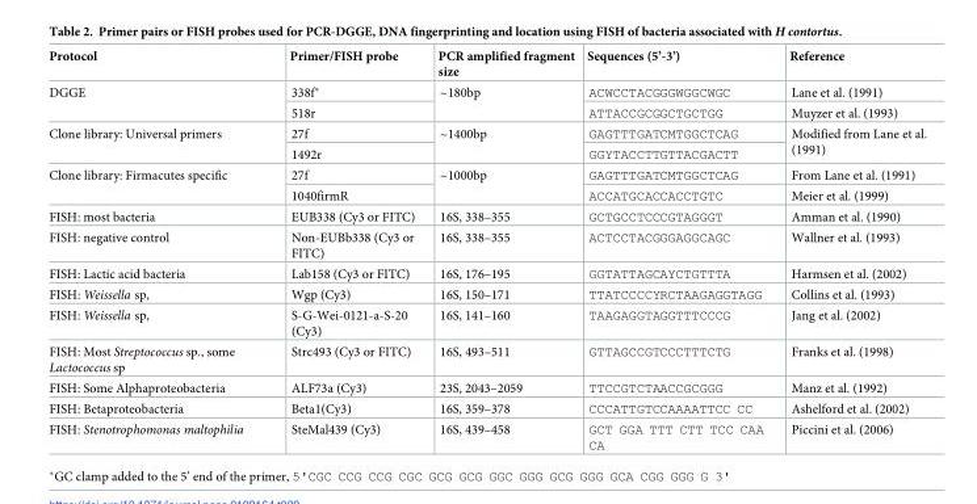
<table><thead><tr><td>Protocol</td><td>Primer/FISH probe</td><td>PCR amplified fragment size</td><td>Sequences (5’-3’)</td><td>Reference</td></tr></thead><tbody><tr><td rowspan="2">DGGE</td><td>338f*</td><td rowspan="2">~180bp</td><td>ACWCCTACGGGWGGCWGC</td><td>Lane et al. (1991)</td></tr><tr><td>518r</td><td>ATTACCGCGGCTGCTGG</td><td>Muyzer et al. (1993)</td></tr><tr><td rowspan="2">Clone library: Universal primers</td><td>27f</td><td rowspan="2">~1400bp</td><td>GAGTTTGATCMTGGCTCAG</td><td rowspan="2">Modified from Lane et al. (1991)</td></tr><tr><td>1492r</td><td>GGYTACCTTGTTACGACTT</td></tr><tr><td rowspan="2">Clone library: Firmacutes specific</td><td>27f</td><td rowspan="2">~1000bp</td><td>GAGTTTGATCMTGGCTCAG</td><td>From Lane et al. (1991)</td></tr><tr><td>1040firmR</td><td>ACCATGCACCACCTGTC</td><td>Meier et al. (1999)</td></tr><tr><td>FISH: most bacteria</td><td>EUB338 (Cy3 or FITC)</td><td>16S, 338–355</td><td>GCTGCCTCCCGTAGGGT</td><td>Amman et al. (1990)</td></tr><tr><td>FISH: negative control</td><td>Non-EUBb338 (Cy3 or FITC)</td><td>16S, 338–355</td><td>ACTCCTACGGGAGGCAGC</td><td>Wallner et al. (1993)</td></tr><tr><td>FISH: Lactic acid bacteria</td><td>Lab158 (Cy3 or FITC)</td><td>16S, 176–195</td><td>GGTATTAGCAYCTGTTTA</td><td>Harmsen et al. (2002)</td></tr><tr><td>FISH: Weissella sp,</td><td>Wgp (Cy3)</td><td>16S, 150–171</td><td>TTATCCCCYRCTAAGAGGTAGG</td><td>Collins et al. (1993)</td></tr><tr><td>FISH: Weissella sp,</td><td>S-G-Wei-0121-a-S-20 (Cy3)</td><td>16S, 141–160</td><td>TAAGAGGTAGGTTTCCCG</td><td>Jang et al. (2002)</td></tr><tr><td>FISH: Most Streptococcus sp., some Lactococcus sp</td><td>Strc493 (Cy3 or FITC)</td><td>16S, 493–511</td><td>GTTAGCCGTCCCTTTCTG</td><td>Franks et al. (1998)</td></tr><tr><td>FISH: Some Alphaproteobacteria</td><td>ALF73a (Cy3)</td><td>23S, 2043–2059</td><td>TTCCGTCTAACCGCGGG</td><td>Manz et al. (1992)</td></tr><tr><td>FISH: Betaproteobacteria</td><td>Beta1(Cy3)</td><td>16S, 359–378</td><td>CCCATTGTCCAAAATTCC CC</td><td>Ashelford et al. (2002)</td></tr><tr><td>FISH: Stenotrophomonas maltophilia</td><td>SteMal439 (Cy3)</td><td>16S, 439–458</td><td>GCT GGA TTT CTT TCC CAA CA</td><td>Piccini et al. (2006)</td></tr></tbody></table>